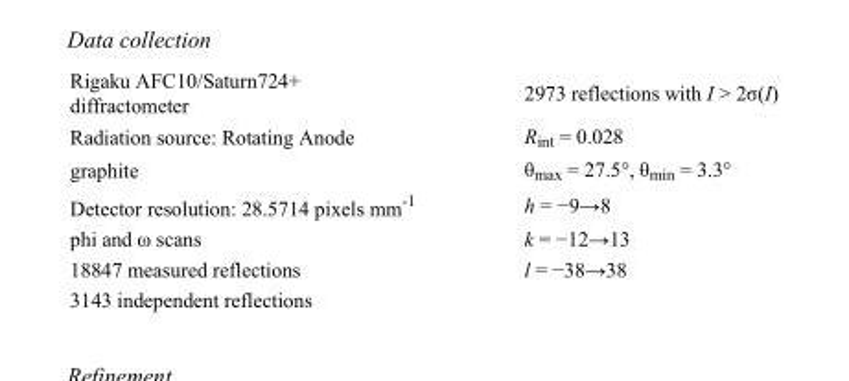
<table><tbody><tr><td>Rigaku AFC10/Saturn724+ diffractometer</td><td>2973 reflections with I &gt; 2σ(I)</td></tr><tr><td>Radiation source: Rotating Anode</td><td>R<sub>int</sub> = 0.028</td></tr><tr><td>graphite</td><td>θ<sub>max</sub> = 27.5°, θ<sub>min</sub> = 3.3°</td></tr><tr><td>Detector resolution: 28.5714 pixels mm<sup>-1</sup></td><td>h = −9→8</td></tr><tr><td>phi and ω scans</td><td>k = −12→13</td></tr><tr><td>18847 measured reflections</td><td>l = −38→38</td></tr><tr><td>3143 independent reflections</td><td></td></tr></tbody></table>